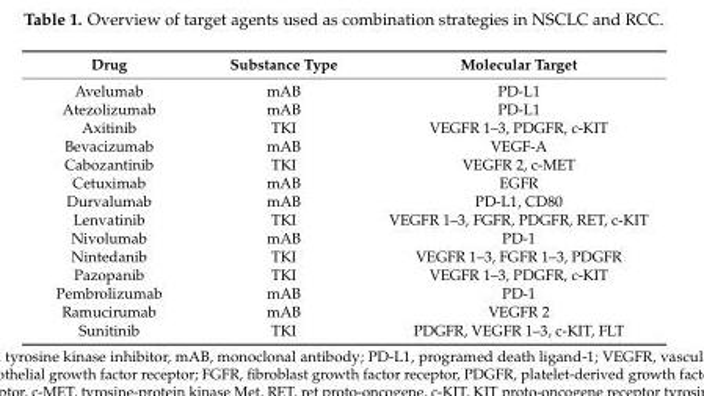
<table><thead><tr><td>Drug</td><td>Substance Type</td><td>Molecular Target</td></tr></thead><tbody><tr><td>Avelumab</td><td>mAB</td><td>PD-L1</td></tr><tr><td>Atezolizumab</td><td>mAB</td><td>PD-L1</td></tr><tr><td>Axitinib</td><td>TKI</td><td>VEGFR 1–3, PDGFR, c-KIT</td></tr><tr><td>Bevacizumab</td><td>mAB</td><td>VEGF-A</td></tr><tr><td>Cabozantinib</td><td>TKI</td><td>VEGFR 2, c-MET</td></tr><tr><td>Cetuximab</td><td>mAB</td><td>EGFR</td></tr><tr><td>Durvalumab</td><td>mAB</td><td>PD-L1, CD80</td></tr><tr><td>Lenvatinib</td><td>TKI</td><td>VEGFR 1–3, FGFR, PDGFR, RET, c-KIT</td></tr><tr><td>Nivolumab</td><td>mAB</td><td>PD-1</td></tr><tr><td>Nintedanib</td><td>TKI</td><td>VEGFR 1–3, FGFR 1–3, PDGFR</td></tr><tr><td>Pazopanib</td><td>TKI</td><td>VEGFR 1–3, PDGFR, c-KIT</td></tr><tr><td>Pembrolizumab</td><td>mAB</td><td>PD-1</td></tr><tr><td>Ramucirumab</td><td>mAB</td><td>VEGFR 2</td></tr><tr><td>Sunitinib</td><td>TKI</td><td>PDGFR, VEGFR 1–3, c-KIT, FLT</td></tr></tbody></table>